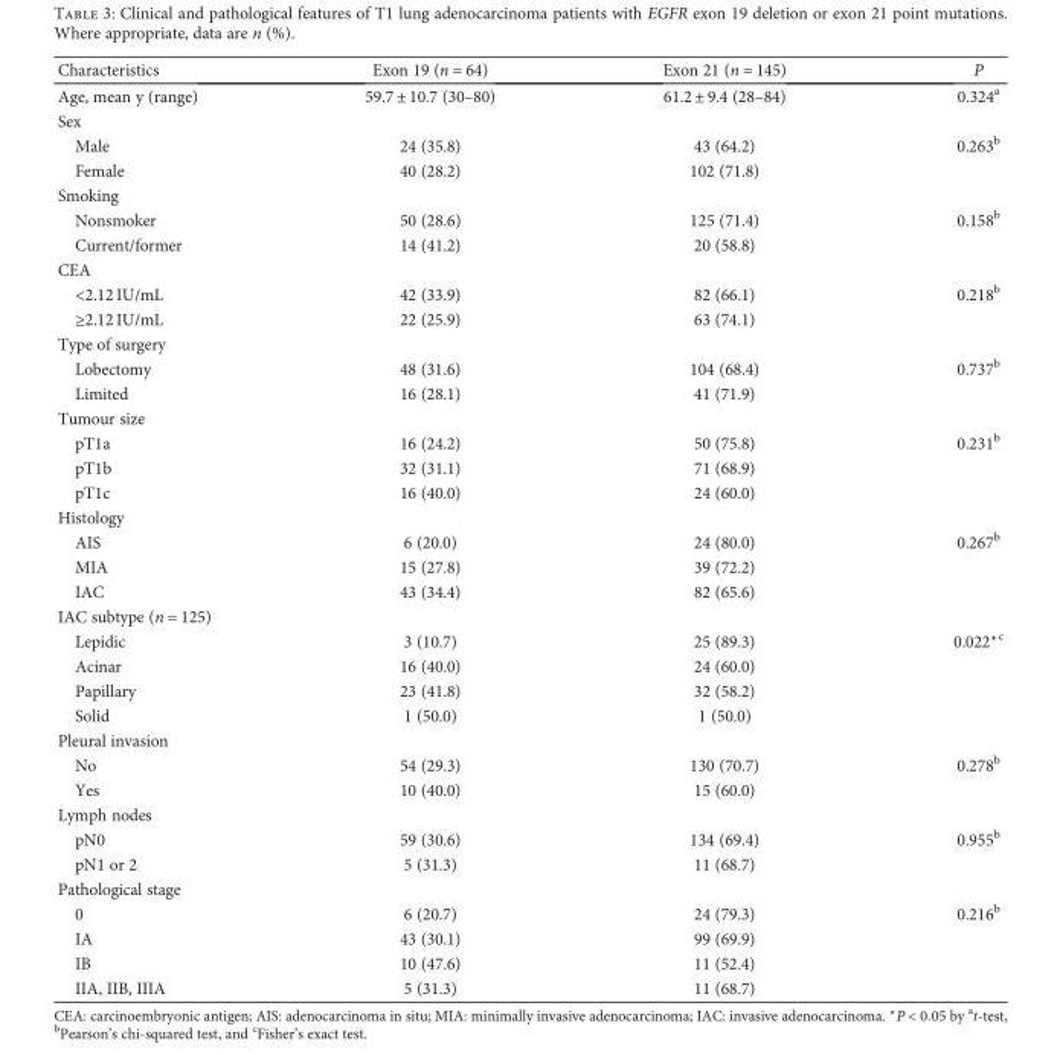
<table><thead><tr><td>Characteristics</td><td>Exon 19 (n = 64)</td><td>Exon 21 (n = 145)</td><td>P</td></tr></thead><tbody><tr><td>Age, mean y (range)</td><td>59.7 ± 10.7 (30–80)</td><td>61.2 ± 9.4 (28–84)</td><td>0.324<sup>a</sup></td></tr><tr><td colspan="4">Sex</td></tr><tr><td>Male</td><td>24 (35.8)</td><td>43 (64.2)</td><td>0.263<sup>b</sup></td></tr><tr><td>Female</td><td>40 (28.2)</td><td>102 (71.8)</td><td></td></tr><tr><td colspan="4">Smoking</td></tr><tr><td>Nonsmoker</td><td>50 (28.6)</td><td>125 (71.4)</td><td>0.158<sup>b</sup></td></tr><tr><td>Current/former</td><td>14 (41.2)</td><td>20 (58.8)</td><td></td></tr><tr><td colspan="4">CEA</td></tr><tr><td>&lt;2.12 IU/mL</td><td>42 (33.9)</td><td>82 (66.1)</td><td>0.218<sup>b</sup></td></tr><tr><td>≥2.12 IU/mL</td><td>22 (25.9)</td><td>63 (74.1)</td><td></td></tr><tr><td colspan="4">Type of surgery</td></tr><tr><td>Lobectomy</td><td>48 (31.6)</td><td>104 (68.4)</td><td>0.737<sup>b</sup></td></tr><tr><td>Limited</td><td>16 (28.1)</td><td>41 (71.9)</td><td></td></tr><tr><td colspan="4">Tumour size</td></tr><tr><td>pT1a</td><td>16 (24.2)</td><td>50 (75.8)</td><td>0.231<sup>b</sup></td></tr><tr><td>pT1b</td><td>32 (31.1)</td><td>71 (68.9)</td><td></td></tr><tr><td>pT1c</td><td>16 (40.0)</td><td>24 (60.0)</td><td></td></tr><tr><td colspan="4">Histology</td></tr><tr><td>AIS</td><td>6 (20.0)</td><td>24 (80.0)</td><td>0.267<sup>b</sup></td></tr><tr><td>MIA</td><td>15 (27.8)</td><td>39 (72.2)</td><td></td></tr><tr><td>IAC</td><td>43 (34.4)</td><td>82 (65.6)</td><td></td></tr><tr><td colspan="4">IAC subtype (n = 125)</td></tr><tr><td>Lepidic</td><td>3 (10.7)</td><td>25 (89.3)</td><td>0.022<sup>∗c</sup></td></tr><tr><td>Acinar</td><td>16 (40.0)</td><td>24 (60.0)</td><td></td></tr><tr><td>Papillary</td><td>23 (41.8)</td><td>32 (58.2)</td><td></td></tr><tr><td>Solid</td><td>1 (50.0)</td><td>1 (50.0)</td><td></td></tr><tr><td colspan="4">Pleural invasion</td></tr><tr><td>No</td><td>54 (29.3)</td><td>130 (70.7)</td><td>0.278<sup>b</sup></td></tr><tr><td>Yes</td><td>10 (40.0)</td><td>15 (60.0)</td><td></td></tr><tr><td colspan="4">Lymph nodes</td></tr><tr><td>pN0</td><td>59 (30.6)</td><td>134 (69.4)</td><td>0.955<sup>b</sup></td></tr><tr><td>pN1 or 2</td><td>5 (31.3)</td><td>11 (68.7)</td><td></td></tr><tr><td colspan="4">Pathological stage</td></tr><tr><td>0</td><td>6 (20.7)</td><td>24 (79.3)</td><td>0.216<sup>b</sup></td></tr><tr><td>IA</td><td>43 (30.1)</td><td>99 (69.9)</td><td></td></tr><tr><td>IB</td><td>10 (47.6)</td><td>11 (52.4)</td><td></td></tr><tr><td>IIA, IIB, IIIA</td><td>5 (31.3)</td><td>11 (68.7)</td><td></td></tr></tbody></table>